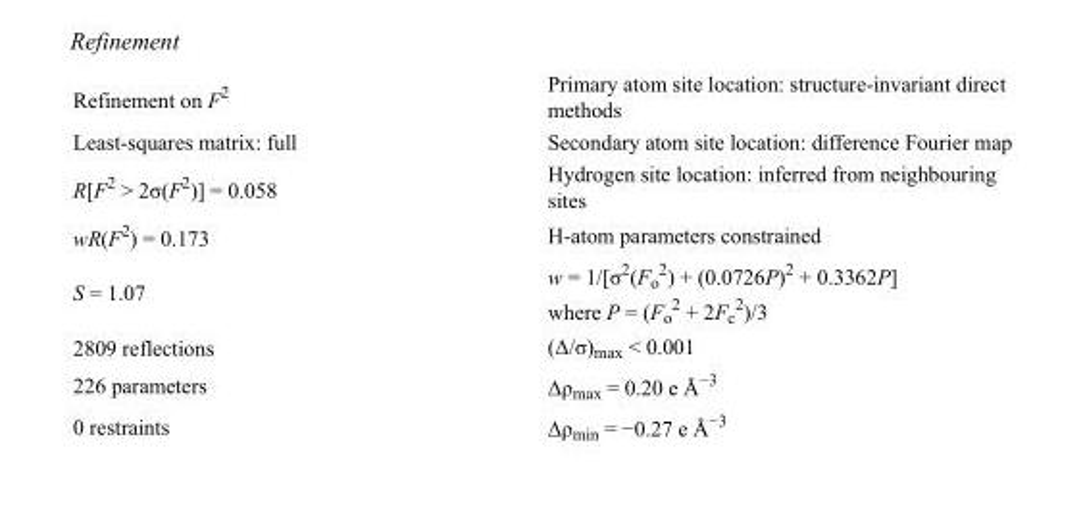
<table><tbody><tr><td>Refinement on F<sup>2</sup></td><td>Primary atom site location: structure-invariant direct methods</td></tr><tr><td>Least-squares matrix: full</td><td>Secondary atom site location: difference Fourier map</td></tr><tr><td>R[F<sup>2</sup> &gt; 2σ(F<sup>2</sup>)] = 0.058</td><td>Hydrogen site location: inferred from neighbouring sites</td></tr><tr><td>wR(F<sup>2</sup>) = 0.173</td><td>H-atom parameters constrained</td></tr><tr><td>S = 1.07</td><td>w = 1/[σ<sup>2</sup>(F<sub>o</sub> <sup>2</sup>) + (0.0726P)<sup>2</sup> + 0.3362P] where P = (F<sub>o</sub> <sup>2</sup> + 2F<sub>c</sub> <sup>2</sup>)/3</td></tr><tr><td>2809 reflections</td><td>(Δ/σ)<sub>max</sub> &lt; 0.001</td></tr><tr><td>226 parameters</td><td>Δρ<sub>max</sub> = 0.20 e Å<sup>−3</sup></td></tr><tr><td>0 restraints</td><td>Δρ<sub>min</sub> = −0.27 e Å<sup>−3</sup></td></tr></tbody></table>